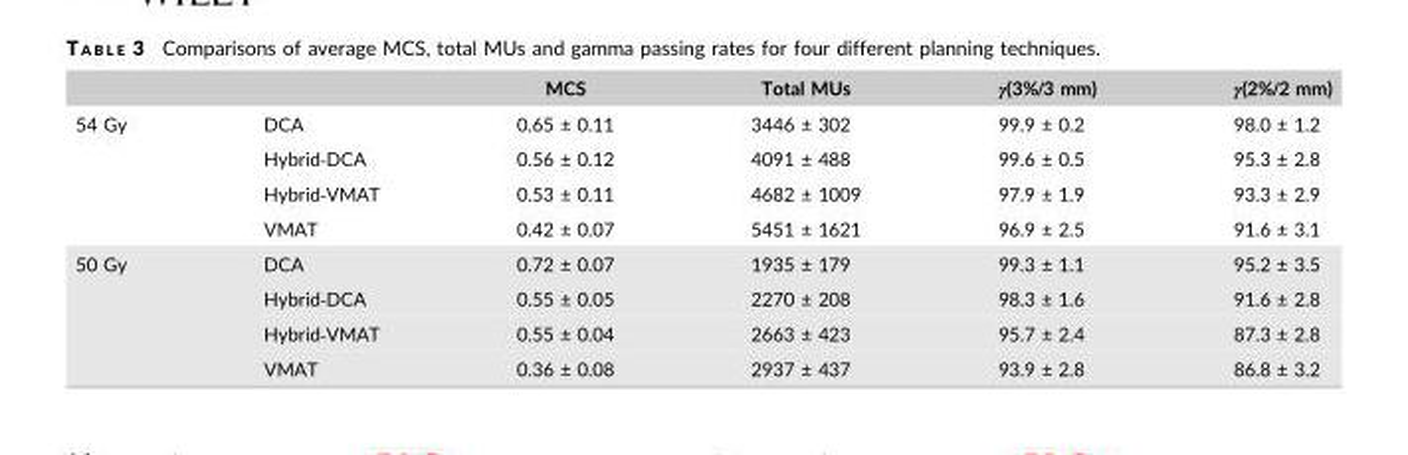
<table><thead><tr><td></td><td></td><td>MCS</td><td>Total MUs</td><td>γ(3%/3 mm)</td><td>γ(2%/2 mm)</td></tr></thead><tbody><tr><td rowspan="4">54 Gy</td><td>DCA</td><td>0.65 ± 0.11</td><td>3446 ± 302</td><td>99.9 ± 0.2</td><td>98.0 ± 1.2</td></tr><tr><td>Hybrid‐DCA</td><td>0.56 ± 0.12</td><td>4091 ± 488</td><td>99.6 ± 0.5</td><td>95.3 ± 2.8</td></tr><tr><td>Hybrid‐VMAT</td><td>0.53 ± 0.11</td><td>4682 ± 1009</td><td>97.9 ± 1.9</td><td>93.3 ± 2.9</td></tr><tr><td>VMAT</td><td>0.42 ± 0.07</td><td>5451 ± 1621</td><td>96.9 ± 2.5</td><td>91.6 ± 3.1</td></tr><tr><td rowspan="4">50 Gy</td><td>DCA</td><td>0.72 ± 0.07</td><td>1935 ± 179</td><td>99.3 ± 1.1</td><td>95.2 ± 3.5</td></tr><tr><td>Hybrid‐DCA</td><td>0.55 ± 0.05</td><td>2270 ± 208</td><td>98.3 ± 1.6</td><td>91.6 ± 2.8</td></tr><tr><td>Hybrid‐VMAT</td><td>0.55 ± 0.04</td><td>2663 ± 423</td><td>95.7 ± 2.4</td><td>87.3 ± 2.8</td></tr><tr><td>VMAT</td><td>0.36 ± 0.08</td><td>2937 ± 437</td><td>93.9 ± 2.8</td><td>86.8 ± 3.2</td></tr></tbody></table>